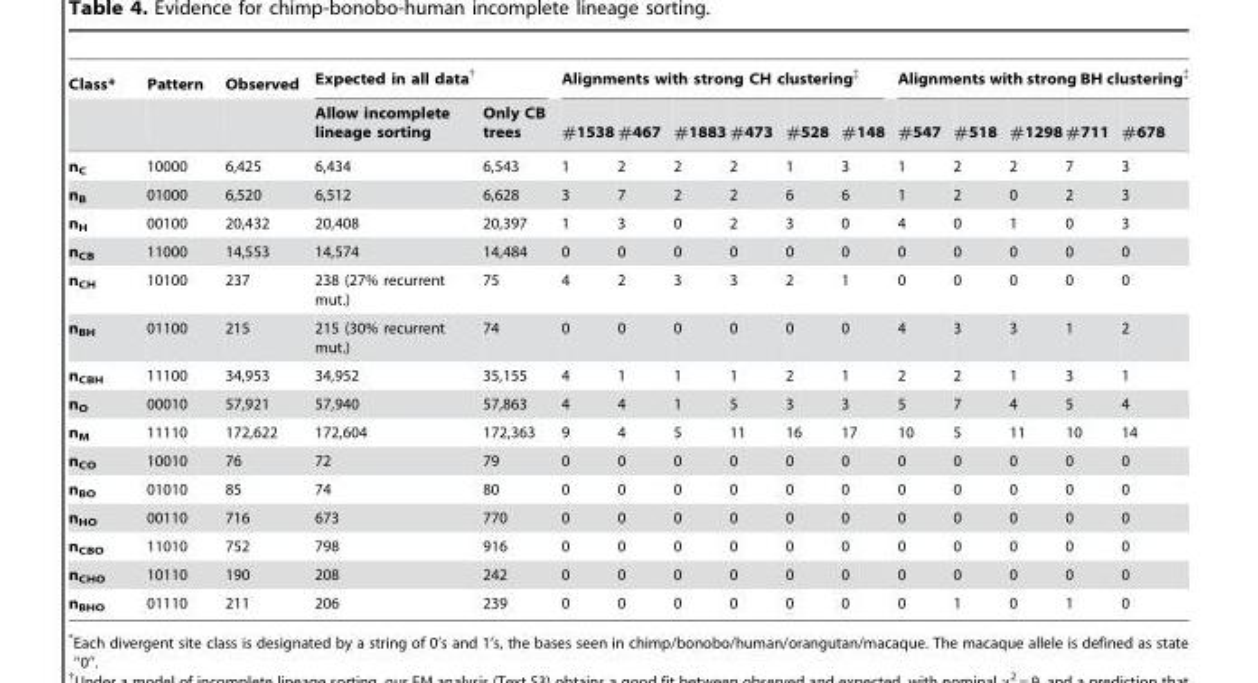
<table><thead><tr><td rowspan="2">Class*</td><td rowspan="2">Pattern</td><td rowspan="2">Observed</td><td colspan="2">Expected in all data†</td><td colspan="6">Alignments with strong CH clustering‡</td><td colspan="5">Alignments with strong BH clustering‡</td></tr><tr><td>Allow incomplete lineage sorting</td><td>Only CB trees</td><td>#1538</td><td>#467</td><td>#1883</td><td>#473</td><td>#528</td><td>#148</td><td>#547</td><td>#518</td><td>#1298</td><td>#711</td><td>#678</td></tr></thead><tbody><tr><td>n<sub>C</sub></td><td>10000</td><td>6,425</td><td>6,434</td><td>6,543</td><td>1</td><td>2</td><td>2</td><td>2</td><td>1</td><td>3</td><td>1</td><td>2</td><td>2</td><td>7</td><td>3</td></tr><tr><td>n<sub>B</sub></td><td>01000</td><td>6,520</td><td>6,512</td><td>6,628</td><td>3</td><td>7</td><td>2</td><td>2</td><td>6</td><td>6</td><td>1</td><td>2</td><td>0</td><td>2</td><td>3</td></tr><tr><td>n<sub>H</sub></td><td>00100</td><td>20,432</td><td>20,408</td><td>20,397</td><td>1</td><td>3</td><td>0</td><td>2</td><td>3</td><td>0</td><td>4</td><td>0</td><td>1</td><td>0</td><td>3</td></tr><tr><td>n<sub>CB</sub></td><td>11000</td><td>14,553</td><td>14,574</td><td>14,484</td><td>0</td><td>0</td><td>0</td><td>0</td><td>0</td><td>0</td><td>0</td><td>0</td><td>0</td><td>0</td><td>0</td></tr><tr><td>n<sub>CH</sub></td><td>10100</td><td>237</td><td>238 (27% recurrent mut.)</td><td>75</td><td>4</td><td>2</td><td>3</td><td>3</td><td>2</td><td>1</td><td>0</td><td>0</td><td>0</td><td>0</td><td>0</td></tr><tr><td>n<sub>BH</sub></td><td>01100</td><td>215</td><td>215 (30% recurrent mut.)</td><td>74</td><td>0</td><td>0</td><td>0</td><td>0</td><td>0</td><td>0</td><td>4</td><td>3</td><td>3</td><td>1</td><td>2</td></tr><tr><td>n<sub>CBH</sub></td><td>11100</td><td>34,953</td><td>34,952</td><td>35,155</td><td>4</td><td>1</td><td>1</td><td>1</td><td>2</td><td>1</td><td>2</td><td>2</td><td>1</td><td>3</td><td>1</td></tr><tr><td>n<sub>O</sub></td><td>00010</td><td>57,921</td><td>57,940</td><td>57,863</td><td>4</td><td>4</td><td>1</td><td>5</td><td>3</td><td>3</td><td>5</td><td>7</td><td>4</td><td>5</td><td>4</td></tr><tr><td>n<sub>M</sub></td><td>11110</td><td>172,622</td><td>172,604</td><td>172,363</td><td>9</td><td>4</td><td>5</td><td>11</td><td>16</td><td>17</td><td>10</td><td>5</td><td>11</td><td>10</td><td>14</td></tr><tr><td>n<sub>CO</sub></td><td>10010</td><td>76</td><td>72</td><td>79</td><td>0</td><td>0</td><td>0</td><td>0</td><td>0</td><td>0</td><td>0</td><td>0</td><td>0</td><td>0</td><td>0</td></tr><tr><td>n<sub>BO</sub></td><td>01010</td><td>85</td><td>74</td><td>80</td><td>0</td><td>0</td><td>0</td><td>0</td><td>0</td><td>0</td><td>0</td><td>0</td><td>0</td><td>0</td><td>0</td></tr><tr><td>n<sub>HO</sub></td><td>00110</td><td>716</td><td>673</td><td>770</td><td>0</td><td>0</td><td>0</td><td>0</td><td>0</td><td>0</td><td>0</td><td>0</td><td>0</td><td>0</td><td>0</td></tr><tr><td>n<sub>CBO</sub></td><td>11010</td><td>752</td><td>798</td><td>916</td><td>0</td><td>0</td><td>0</td><td>0</td><td>0</td><td>0</td><td>0</td><td>0</td><td>0</td><td>0</td><td>0</td></tr><tr><td>n<sub>CHO</sub></td><td>10110</td><td>190</td><td>208</td><td>242</td><td>0</td><td>0</td><td>0</td><td>0</td><td>0</td><td>0</td><td>0</td><td>0</td><td>0</td><td>0</td><td>0</td></tr><tr><td>n<sub>BHO</sub></td><td>01110</td><td>211</td><td>206</td><td>239</td><td>0</td><td>0</td><td>0</td><td>0</td><td>0</td><td>0</td><td>0</td><td>1</td><td>0</td><td>1</td><td>0</td></tr></tbody></table>